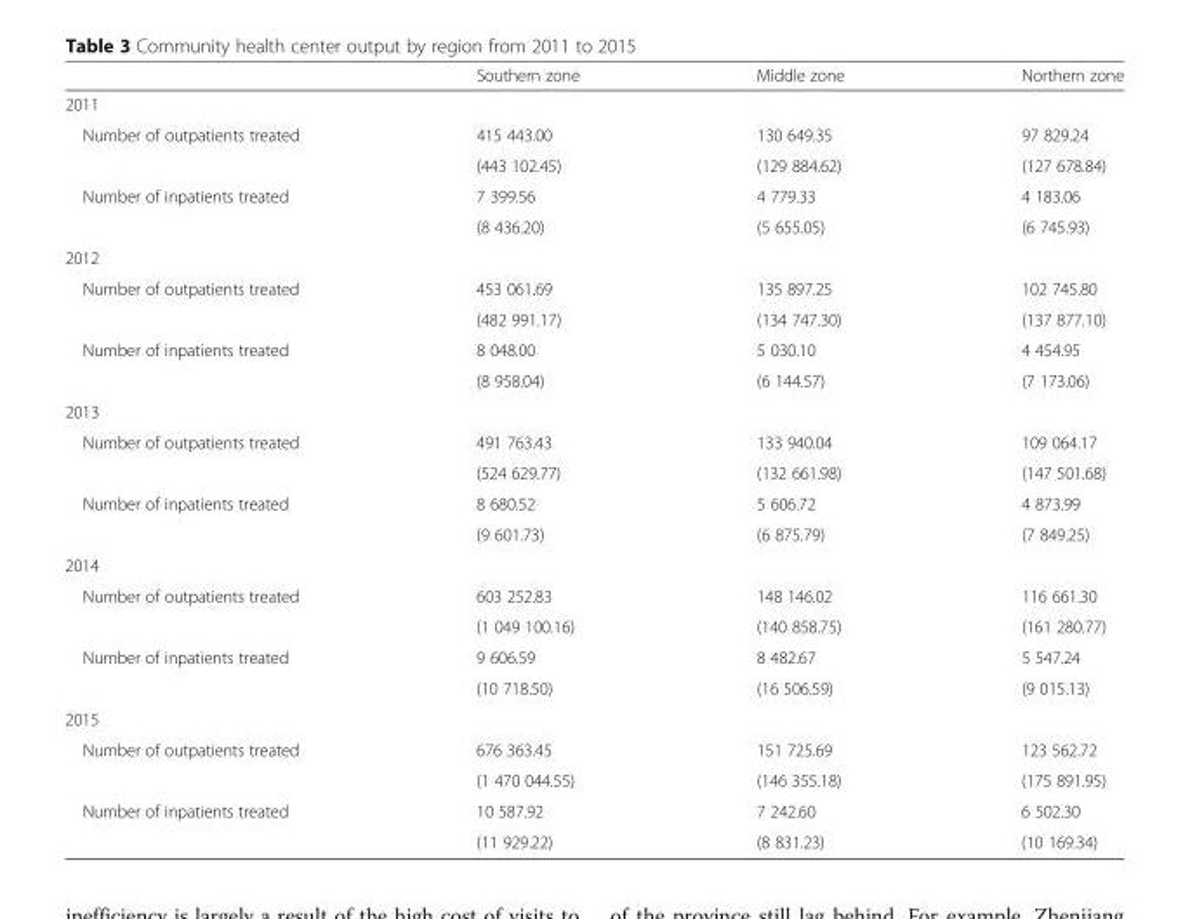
<table><thead><tr><td></td><td>Southern zone</td><td>Middle zone</td><td>Northern zone</td></tr></thead><tbody><tr><td colspan="4">2011</td></tr><tr><td rowspan="2">Number of outpatients treated</td><td>415 443.00</td><td>130 649.35</td><td>97 829.24</td></tr><tr><td>(443 102.45)</td><td>(129 884.62)</td><td>(127 678.84)</td></tr><tr><td rowspan="2">Number of inpatients treated</td><td>7 399.56</td><td>4 779.33</td><td>4 183.06</td></tr><tr><td>(8 436.20)</td><td>(5 655.05)</td><td>(6 745.93)</td></tr><tr><td colspan="4">2012</td></tr><tr><td rowspan="2">Number of outpatients treated</td><td>453 061.69</td><td>135 897.25</td><td>102 745.80</td></tr><tr><td>(482 991.17)</td><td>(134 747.30)</td><td>(137 877.10)</td></tr><tr><td rowspan="2">Number of inpatients treated</td><td>8 048.00</td><td>5 030.10</td><td>4 454.95</td></tr><tr><td>(8 958.04)</td><td>(6 144.57)</td><td>(7 173.06)</td></tr><tr><td colspan="4">2013</td></tr><tr><td rowspan="2">Number of outpatients treated</td><td>491 763.43</td><td>133 940.04</td><td>109 064.17</td></tr><tr><td>(524 629.77)</td><td>(132 661.98)</td><td>(147 501.68)</td></tr><tr><td rowspan="2">Number of inpatients treated</td><td>8 680.52</td><td>5 606.72</td><td>4 873.99</td></tr><tr><td>(9 601.73)</td><td>(6 875.79)</td><td>(7 849.25)</td></tr><tr><td colspan="4">2014</td></tr><tr><td rowspan="2">Number of outpatients treated</td><td>603 252.83</td><td>148 146.02</td><td>116 661.30</td></tr><tr><td>(1 049 100.16)</td><td>(140 858.75)</td><td>(161 280.77)</td></tr><tr><td rowspan="2">Number of inpatients treated</td><td>9 606.59</td><td>8 482.67</td><td>5 547.24</td></tr><tr><td>(10 718.50)</td><td>(16 506.59)</td><td>(9 015.13)</td></tr><tr><td colspan="4">2015</td></tr><tr><td rowspan="2">Number of outpatients treated</td><td>676 363.45</td><td>151 725.69</td><td>123 562.72</td></tr><tr><td>(1 470 044.55)</td><td>(146 355.18)</td><td>(175 891.95)</td></tr><tr><td rowspan="2">Number of inpatients treated</td><td>10 587.92</td><td>7 242.60</td><td>6 502.30</td></tr><tr><td>(11 929.22)</td><td>(8 831.23)</td><td>(10 169.34)</td></tr></tbody></table>